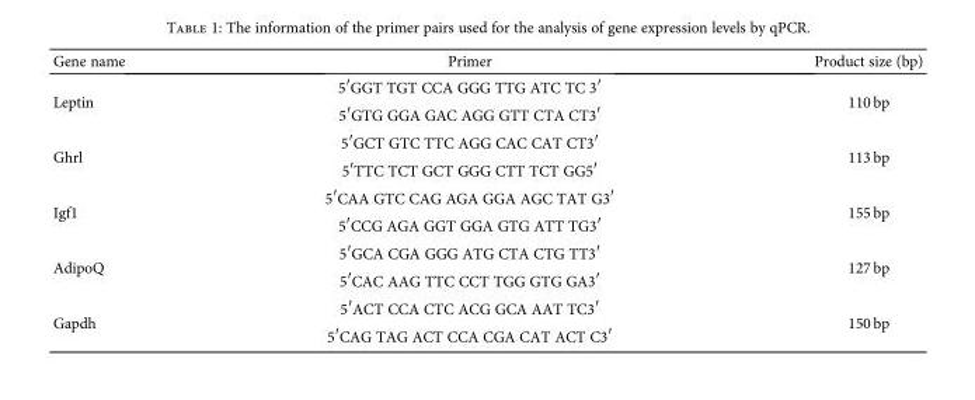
<table><thead><tr><td>Gene name</td><td>Primer</td><td>Product size (bp)</td></tr></thead><tbody><tr><td rowspan="2">Leptin</td><td>5′GGT TGT CCA GGG TTG ATC TC 3′</td><td rowspan="2">110 bp</td></tr><tr><td>5′GTG GGA GAC AGG GTT CTA CT3′</td></tr><tr><td rowspan="2">Ghrl</td><td>5′GCT GTC TTC AGG CAC CAT CT3′</td><td rowspan="2">113 bp</td></tr><tr><td>5′TTC TCT GCT GGG CTT TCT GG5′</td></tr><tr><td rowspan="2">Igf1</td><td>5′CAA GTC CAG AGA GGA AGC TAT G3′</td><td rowspan="2">155 bp</td></tr><tr><td>5′CCG AGA GGT GGA GTG ATT TG3′</td></tr><tr><td rowspan="2">AdipoQ</td><td>5′GCA CGA GGG ATG CTA CTG TT3′</td><td rowspan="2">127 bp</td></tr><tr><td>5′CAC AAG TTC CCT TGG GTG GA3′</td></tr><tr><td rowspan="2">Gapdh</td><td>5′ACT CCA CTC ACG GCA AAT TC3′</td><td rowspan="2">150 bp</td></tr><tr><td>5′CAG TAG ACT CCA CGA CAT ACT C3′</td></tr></tbody></table>